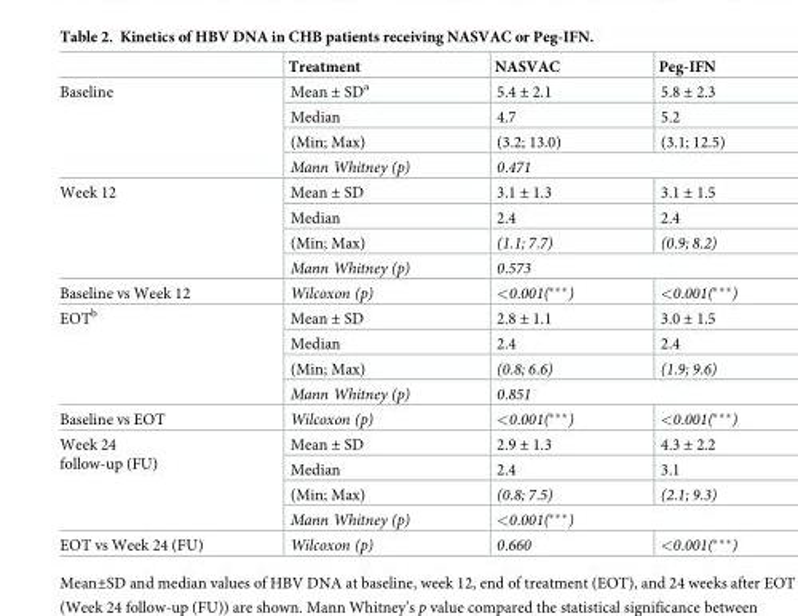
<table><thead><tr><td></td><td>Treatment</td><td>NASVAC</td><td>Peg-IFN</td></tr></thead><tbody><tr><td rowspan="4">Baseline</td><td>Mean ± SD<sup>a</sup></td><td>5.4 ± 2.1</td><td>5.8 ± 2.3</td></tr><tr><td>Median</td><td>4.7</td><td>5.2</td></tr><tr><td>(Min; Max)</td><td>(3.2; 13.0)</td><td>(3.1; 12.5)</td></tr><tr><td>Mann Whitney (p)</td><td colspan="2">0.471</td></tr><tr><td rowspan="4">Week 12</td><td>Mean ± SD</td><td>3.1 ± 1.3</td><td>3.1 ± 1.5</td></tr><tr><td>Median</td><td>2.4</td><td>2.4</td></tr><tr><td>(Min; Max)</td><td>(1.1; 7.7)</td><td>(0.9; 8.2)</td></tr><tr><td>Mann Whitney (p)</td><td colspan="2">0.573</td></tr><tr><td>Baseline vs Week 12</td><td>Wilcoxon (p)</td><td>&lt;0.001(***)</td><td>&lt;0.001(***)</td></tr><tr><td rowspan="4">EOT<sup>b</sup></td><td>Mean ± SD</td><td>2.8 ± 1.1</td><td>3.0 ± 1.5</td></tr><tr><td>Median</td><td>2.4</td><td>2.4</td></tr><tr><td>(Min; Max)</td><td>(0.8; 6.6)</td><td>(1.9; 9.6)</td></tr><tr><td>Mann Whitney (p)</td><td colspan="2">0.851</td></tr><tr><td>Baseline vs EOT</td><td>Wilcoxon (p)</td><td>&lt;0.001(***)</td><td>&lt;0.001(***)</td></tr><tr><td rowspan="4">Week 24 follow-up (FU)</td><td>Mean ± SD</td><td>2.9 ± 1.3</td><td>4.3 ± 2.2</td></tr><tr><td>Median</td><td>2.4</td><td>3.1</td></tr><tr><td>(Min; Max)</td><td>(0.8; 7.5)</td><td>(2.1; 9.3)</td></tr><tr><td>Mann Whitney (p)</td><td colspan="2">&lt;0.001(***)</td></tr><tr><td>EOT vs Week 24 (FU)</td><td>Wilcoxon (p)</td><td>0.660</td><td>&lt;0.001(***)</td></tr></tbody></table>